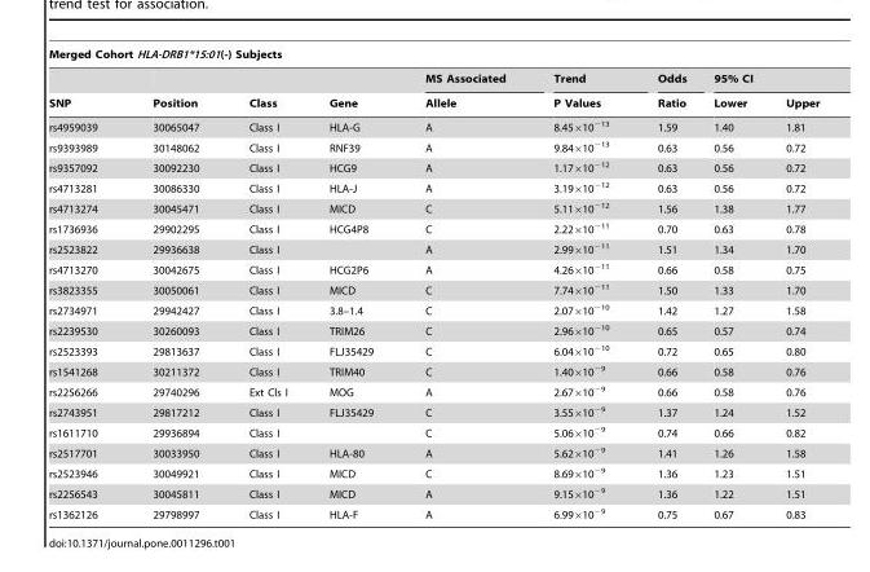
<table><thead><tr><td colspan="9">Merged Cohort HLA-DRB1*15:01(-) Subjects</td></tr><tr><td rowspan="2">SNP</td><td rowspan="2">Position</td><td rowspan="2">Class</td><td rowspan="2">Gene</td><td rowspan="2">MS Associated Allele</td><td rowspan="2">Trend P Values</td><td rowspan="2">Odds Ratio</td><td colspan="2">95% CI</td></tr><tr><td>Lower</td><td>Upper</td></tr></thead><tbody><tr><td>rs4959039</td><td>30065047</td><td>Class I</td><td>HLA-G</td><td>A</td><td>8.45×10<sup>−13</sup></td><td>1.59</td><td>1.40</td><td>1.81</td></tr><tr><td>rs9393989</td><td>30148062</td><td>Class I</td><td>RNF39</td><td>A</td><td>9.84×10<sup>−13</sup></td><td>0.63</td><td>0.56</td><td>0.72</td></tr><tr><td>rs9357092</td><td>30092230</td><td>Class I</td><td>HCG9</td><td>A</td><td>1.17×10<sup>−12</sup></td><td>0.63</td><td>0.56</td><td>0.72</td></tr><tr><td>rs4713281</td><td>30086330</td><td>Class I</td><td>HLA-J</td><td>A</td><td>3.19×10<sup>−12</sup></td><td>0.63</td><td>0.56</td><td>0.72</td></tr><tr><td>rs4713274</td><td>30045471</td><td>Class I</td><td>MICD</td><td>C</td><td>5.11×10<sup>−12</sup></td><td>1.56</td><td>1.38</td><td>1.77</td></tr><tr><td>rs1736936</td><td>29902295</td><td>Class I</td><td>HCG4P8</td><td>C</td><td>2.22×10<sup>−11</sup></td><td>0.70</td><td>0.63</td><td>0.78</td></tr><tr><td>rs2523822</td><td>29936638</td><td>Class I</td><td></td><td>A</td><td>2.99×10<sup>−11</sup></td><td>1.51</td><td>1.34</td><td>1.70</td></tr><tr><td>rs4713270</td><td>30042675</td><td>Class I</td><td>HCG2P6</td><td>A</td><td>4.26×10<sup>−11</sup></td><td>0.66</td><td>0.58</td><td>0.75</td></tr><tr><td>rs3823355</td><td>30050061</td><td>Class I</td><td>MICD</td><td>C</td><td>7.74×10<sup>−11</sup></td><td>1.50</td><td>1.33</td><td>1.70</td></tr><tr><td>rs2734971</td><td>29942427</td><td>Class I</td><td>3.8–1.4</td><td>C</td><td>2.07×10<sup>−10</sup></td><td>1.42</td><td>1.27</td><td>1.58</td></tr><tr><td>rs2239530</td><td>30260093</td><td>Class I</td><td>TRIM26</td><td>C</td><td>2.96×10<sup>−10</sup></td><td>0.65</td><td>0.57</td><td>0.74</td></tr><tr><td>rs2523393</td><td>29813637</td><td>Class I</td><td>FLJ35429</td><td>C</td><td>6.04×10<sup>−10</sup></td><td>0.72</td><td>0.65</td><td>0.80</td></tr><tr><td>rs1541268</td><td>30211372</td><td>Class I</td><td>TRIM40</td><td>C</td><td>1.40×10<sup>−9</sup></td><td>0.66</td><td>0.58</td><td>0.76</td></tr><tr><td>rs2256266</td><td>29740296</td><td>Ext Cls I</td><td>MOG</td><td>A</td><td>2.67×10<sup>−9</sup></td><td>0.66</td><td>0.58</td><td>0.76</td></tr><tr><td>rs2743951</td><td>29817212</td><td>Class I</td><td>FLJ35429</td><td>C</td><td>3.55×10<sup>−9</sup></td><td>1.37</td><td>1.24</td><td>1.52</td></tr><tr><td>rs1611710</td><td>29936894</td><td>Class I</td><td></td><td>C</td><td>5.06×10<sup>−9</sup></td><td>0.74</td><td>0.66</td><td>0.82</td></tr><tr><td>rs2517701</td><td>30033950</td><td>Class I</td><td>HLA-80</td><td>A</td><td>5.62×10<sup>−9</sup></td><td>1.41</td><td>1.26</td><td>1.58</td></tr><tr><td>rs2523946</td><td>30049921</td><td>Class I</td><td>MICD</td><td>C</td><td>8.69×10<sup>−9</sup></td><td>1.36</td><td>1.23</td><td>1.51</td></tr><tr><td>rs2256543</td><td>30045811</td><td>Class I</td><td>MICD</td><td>A</td><td>9.15×10<sup>−9</sup></td><td>1.36</td><td>1.22</td><td>1.51</td></tr><tr><td>rs1362126</td><td>29798997</td><td>Class I</td><td>HLA-F</td><td>A</td><td>6.99×10<sup>−9</sup></td><td>0.75</td><td>0.67</td><td>0.83</td></tr></tbody></table>